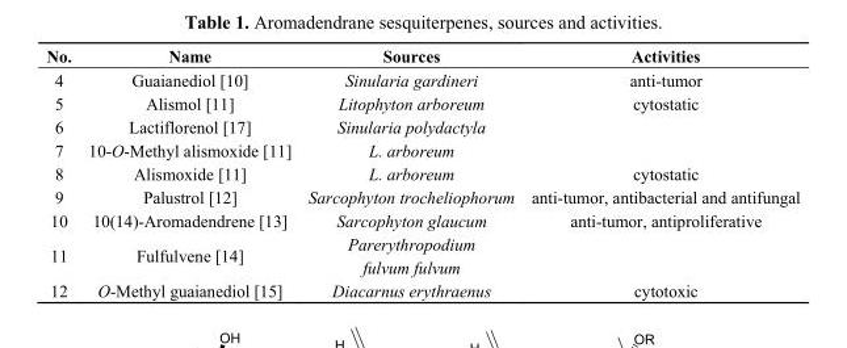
<table><thead><tr><td>No.</td><td>Name</td><td>Sources</td><td>Activities</td></tr></thead><tbody><tr><td>4</td><td>Guaianediol [10]</td><td>Sinularia gardineri</td><td>anti-tumor</td></tr><tr><td>5</td><td>Alismol [11]</td><td>Litophyton arboreum</td><td>cytostatic</td></tr><tr><td>6</td><td>Lactiflorenol [17]</td><td>Sinularia polydactyla</td><td></td></tr><tr><td>7</td><td>10-O-Methyl alismoxide [11]</td><td>L. arboreum</td><td></td></tr><tr><td>8</td><td>Alismoxide [11]</td><td>L. arboreum</td><td>cytostatic</td></tr><tr><td>9</td><td>Palustrol [12]</td><td>Sarcophyton trocheliophorum</td><td>anti-tumor, antibacterial and antifungal</td></tr><tr><td>10</td><td>10(14)-Aromadendrene [13]</td><td>Sarcophyton glaucum</td><td>anti-tumor, antiproliferative</td></tr><tr><td>11</td><td>Fulfulvene [14]</td><td>Parerythropodium fulvum fulvum</td><td></td></tr><tr><td>12</td><td>O-Methyl guaianediol [15]</td><td>Diacarnus erythraenus</td><td>cytotoxic</td></tr></tbody></table>